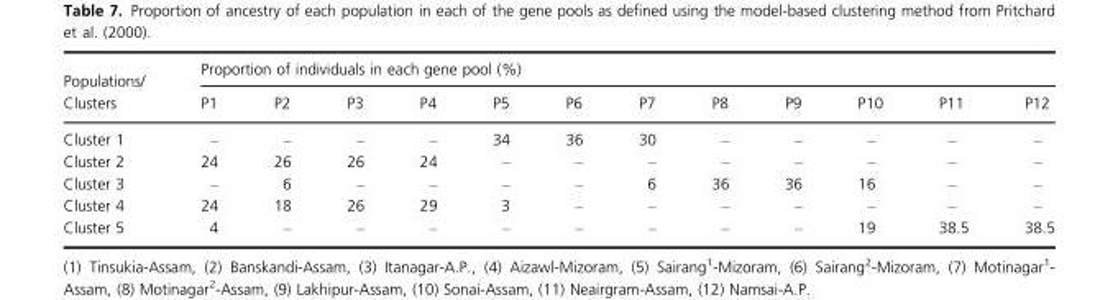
<table><thead><tr><td rowspan="2">Populations/ Clusters</td><td colspan="12">Proportion of individuals in each gene pool (%)</td></tr><tr><td>P1</td><td>P2</td><td>P3</td><td>P4</td><td>P5</td><td>P6</td><td>P7</td><td>P8</td><td>P9</td><td>P10</td><td>P11</td><td>P12</td></tr></thead><tbody><tr><td>Cluster 1</td><td>–</td><td>–</td><td>–</td><td>–</td><td>34</td><td>36</td><td>30</td><td>–</td><td>–</td><td>–</td><td>–</td><td>–</td></tr><tr><td>Cluster 2</td><td>24</td><td>26</td><td>26</td><td>24</td><td>–</td><td>–</td><td>–</td><td>–</td><td>–</td><td>–</td><td>–</td><td>–</td></tr><tr><td>Cluster 3</td><td>–</td><td>6</td><td>–</td><td>–</td><td>–</td><td>–</td><td>6</td><td>36</td><td>36</td><td>16</td><td>–</td><td>–</td></tr><tr><td>Cluster 4</td><td>24</td><td>18</td><td>26</td><td>29</td><td>3</td><td>–</td><td>–</td><td>–</td><td>–</td><td>–</td><td>–</td><td>–</td></tr><tr><td>Cluster 5</td><td>4</td><td>–</td><td>–</td><td>–</td><td>–</td><td>–</td><td>–</td><td>–</td><td>–</td><td>19</td><td>38.5</td><td>38.5</td></tr></tbody></table>